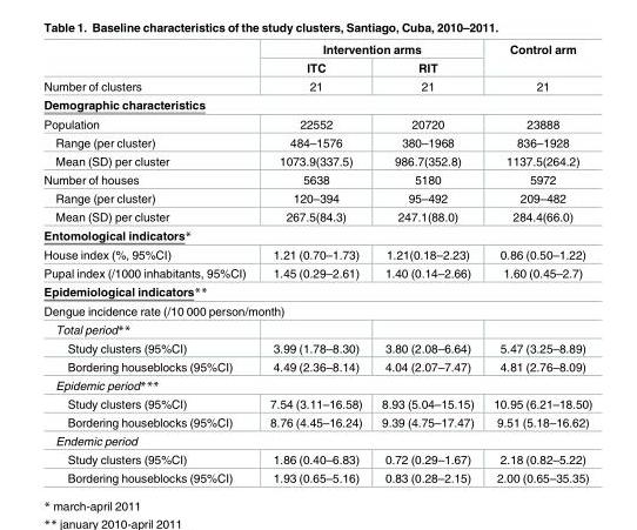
<table><thead><tr><td rowspan="2"></td><td colspan="2">Intervention arms</td><td rowspan="2">Control arm</td></tr><tr><td>ITC</td><td>RIT</td></tr></thead><tbody><tr><td>Number of clusters</td><td>21</td><td>21</td><td>21</td></tr><tr><td colspan="4">Demographic characteristics</td></tr><tr><td>Population</td><td>22552</td><td>20720</td><td>23888</td></tr><tr><td>Range (per cluster)</td><td>484–1576</td><td>380–1968</td><td>836–1928</td></tr><tr><td>Mean (SD) per cluster</td><td>1073.9(337.5)</td><td>986.7(352.8)</td><td>1137.5(264.2)</td></tr><tr><td>Number of houses</td><td>5638</td><td>5180</td><td>5972</td></tr><tr><td>Range (per cluster)</td><td>120–394</td><td>95–492</td><td>209–482</td></tr><tr><td>Mean (SD) per cluster</td><td>267.5(84.3)</td><td>247.1(88.0)</td><td>284.4(66.0)</td></tr><tr><td colspan="4">Entomological indicators*</td></tr><tr><td>House index (%, 95%CI)</td><td>1.21 (0.70–1.73)</td><td>1.21(0.18–2.23)</td><td>0.86 (0.50–1.22)</td></tr><tr><td>Pupal index (/1000 inhabitants, 95%CI)</td><td>1.45 (0.29–2.61)</td><td>1.40 (0.14–2.66)</td><td>1.60 (0.45–2.7)</td></tr><tr><td colspan="4">Epidemiological indicators**</td></tr><tr><td colspan="4">Dengue incidence rate (/10 000 person/month)</td></tr><tr><td colspan="4">Total period**</td></tr><tr><td>Study clusters (95%CI)</td><td>3.99 (1.78–8.30)</td><td>3.80 (2.08–6.64)</td><td>5.47 (3.25–8.89)</td></tr><tr><td>Bordering houseblocks (95%CI)</td><td>4.49 (2.36–8.14)</td><td>4.04 (2.07–7.47)</td><td>4.81 (2.76–8.09)</td></tr><tr><td colspan="4">Epidemic period***</td></tr><tr><td>Study clusters (95%CI)</td><td>7.54 (3.11–16.58)</td><td>8.93 (5.04–15.15)</td><td>10.95 (6.21–18.50)</td></tr><tr><td>Bordering houseblocks (95%CI)</td><td>8.76 (4.45–16.24)</td><td>9.39 (4.75–17.47)</td><td>9.51 (5.18–16.62)</td></tr><tr><td colspan="4">Endemic period</td></tr><tr><td>Study clusters (95%CI)</td><td>1.86 (0.40–6.83)</td><td>0.72 (0.29–1.67)</td><td>2.18 (0.82–5.22)</td></tr><tr><td>Bordering houseblocks (95%CI)</td><td>1.93 (0.65–5.16)</td><td>0.83 (0.28–2.15)</td><td>2.00 (0.65–35.35)</td></tr></tbody></table>